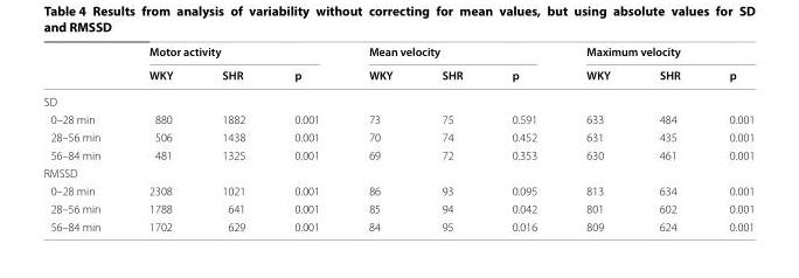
<table><thead><tr><td rowspan="2"></td><td colspan="3">Motor activity</td><td colspan="3">Mean velocity</td><td colspan="3">Maximum velocity</td></tr><tr><td>WKY</td><td>SHR</td><td>p</td><td>WKY</td><td>SHR</td><td>p</td><td>WKY</td><td>SHR</td><td>p</td></tr></thead><tbody><tr><td colspan="10">SD</td></tr><tr><td>0–28 min</td><td>880</td><td>1882</td><td>0.001</td><td>73</td><td>75</td><td>0.591</td><td>633</td><td>484</td><td>0.001</td></tr><tr><td>28–56 min</td><td>506</td><td>1438</td><td>0.001</td><td>70</td><td>74</td><td>0.452</td><td>631</td><td>435</td><td>0.001</td></tr><tr><td>56–84 min</td><td>481</td><td>1325</td><td>0.001</td><td>69</td><td>72</td><td>0.353</td><td>630</td><td>461</td><td>0.001</td></tr><tr><td colspan="10">RMSSD</td></tr><tr><td>0–28 min</td><td>2308</td><td>1021</td><td>0.001</td><td>86</td><td>93</td><td>0.095</td><td>813</td><td>634</td><td>0.001</td></tr><tr><td>28–56 min</td><td>1788</td><td>641</td><td>0.001</td><td>85</td><td>94</td><td>0.042</td><td>801</td><td>602</td><td>0.001</td></tr><tr><td>56–84 min</td><td>1702</td><td>629</td><td>0.001</td><td>84</td><td>95</td><td>0.016</td><td>809</td><td>624</td><td>0.001</td></tr></tbody></table>